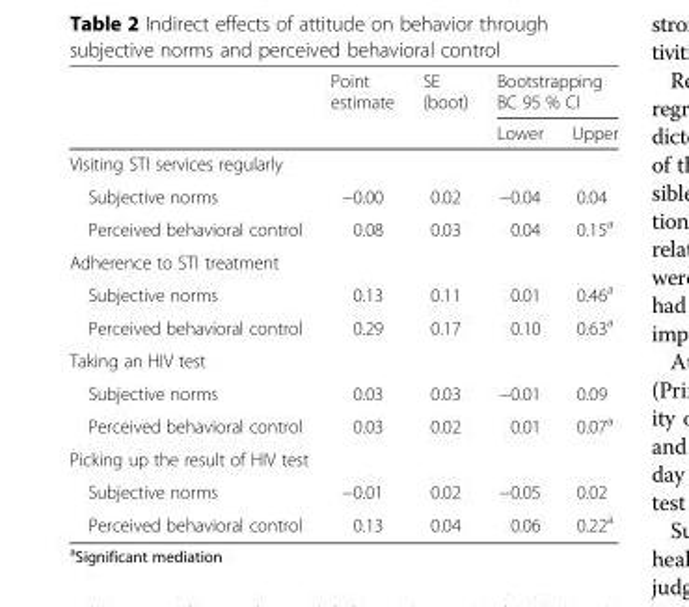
<table><thead><tr><td rowspan="2"></td><td rowspan="2">Point estimate</td><td rowspan="2">SE (boot)</td><td colspan="2">Bootstrapping BC 95 % CI</td></tr><tr><td>Lower</td><td>Upper</td></tr></thead><tbody><tr><td colspan="5">Visiting STI services regularly</td></tr><tr><td>Subjective norms</td><td>−0.00</td><td>0.02</td><td>−0.04</td><td>0.04</td></tr><tr><td>Perceived behavioral control</td><td>0.08</td><td>0.03</td><td>0.04</td><td>0.15<sup>a</sup></td></tr><tr><td colspan="5">Adherence to STI treatment</td></tr><tr><td>Subjective norms</td><td>0.13</td><td>0.11</td><td>0.01</td><td>0.46<sup>a</sup></td></tr><tr><td>Perceived behavioral control</td><td>0.29</td><td>0.17</td><td>0.10</td><td>0.63<sup>a</sup></td></tr><tr><td colspan="5">Taking an HIV test</td></tr><tr><td>Subjective norms</td><td>0.03</td><td>0.03</td><td>−0.01</td><td>0.09</td></tr><tr><td>Perceived behavioral control</td><td>0.03</td><td>0.02</td><td>0.01</td><td>0.07<sup>a</sup></td></tr><tr><td colspan="5">Picking up the result of HIV test</td></tr><tr><td>Subjective norms</td><td>−0.01</td><td>0.02</td><td>−0.05</td><td>0.02</td></tr><tr><td>Perceived behavioral control</td><td>0.13</td><td>0.04</td><td>0.06</td><td>0.22<sup>a</sup></td></tr></tbody></table>